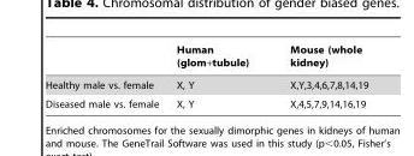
<table><thead><tr><td></td><td>Human (glom+tubule)</td><td>Mouse (whole kidney)</td></tr></thead><tbody><tr><td>Healthy male vs. female</td><td>X, Y</td><td>X,Y,3,4,6,7,8,14,19</td></tr><tr><td>Diseased male vs. female</td><td>X, Y</td><td>X,4,5,7,9,14,16,19</td></tr></tbody></table>